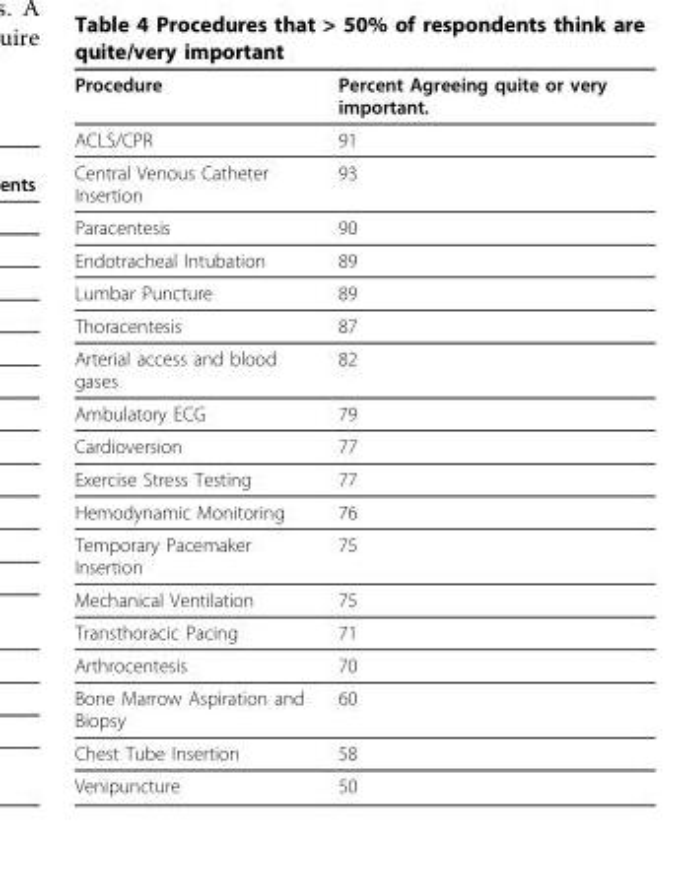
<table><thead><tr><td>Procedure</td><td>Percent Agreeing quite or very important.</td></tr></thead><tbody><tr><td>ACLS/CPR</td><td>91</td></tr><tr><td>Central Venous Catheter Insertion</td><td>93</td></tr><tr><td>Paracentesis</td><td>90</td></tr><tr><td>Endotracheal Intubation</td><td>89</td></tr><tr><td>Lumbar Puncture</td><td>89</td></tr><tr><td>Thoracentesis</td><td>87</td></tr><tr><td>Arterial access and blood gases</td><td>82</td></tr><tr><td>Ambulatory ECG</td><td>79</td></tr><tr><td>Cardioversion</td><td>77</td></tr><tr><td>Exercise Stress Testing</td><td>77</td></tr><tr><td>Hemodynamic Monitoring</td><td>76</td></tr><tr><td>Temporary Pacemaker Insertion</td><td>75</td></tr><tr><td>Mechanical Ventilation</td><td>75</td></tr><tr><td>Transthoracic Pacing</td><td>71</td></tr><tr><td>Arthrocentesis</td><td>70</td></tr><tr><td>Bone Marrow Aspiration and Biopsy</td><td>60</td></tr><tr><td>Chest Tube Insertion</td><td>58</td></tr><tr><td>Venipuncture</td><td>50</td></tr></tbody></table>